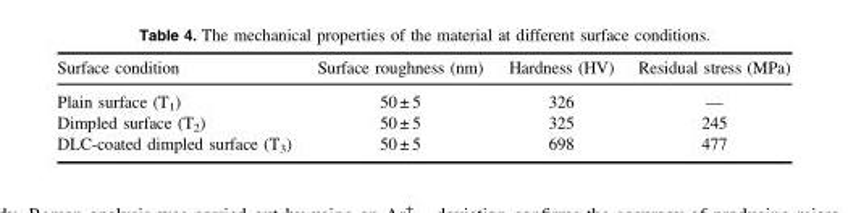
<table><thead><tr><td>Surface condition</td><td>Surface roughness (nm)</td><td>Hardness (HV)</td><td>Residual stress (MPa)</td></tr></thead><tbody><tr><td>Plain surface (T<sub>1</sub>)</td><td>50 ± 5</td><td>326</td><td>—</td></tr><tr><td>Dimpled surface (T<sub>2</sub>)</td><td>50 ± 5</td><td>325</td><td>245</td></tr><tr><td>DLC-coated dimpled surface (T<sub>3</sub>)</td><td>50 ± 5</td><td>698</td><td>477</td></tr></tbody></table>